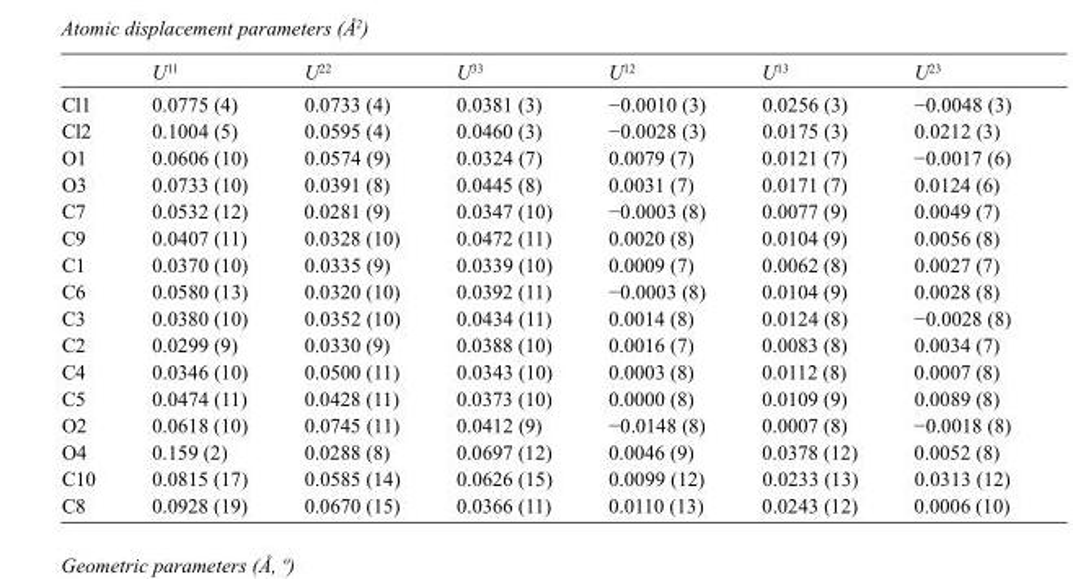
<table><thead><tr><td></td><td>U<sup>11</sup></td><td>U<sup>22</sup></td><td>U<sup>33</sup></td><td>U<sup>12</sup></td><td>U<sup>13</sup></td><td>U<sup>23</sup></td></tr></thead><tbody><tr><td>Cl1</td><td>0.0775 (4)</td><td>0.0733 (4)</td><td>0.0381 (3)</td><td>−0.0010 (3)</td><td>0.0256 (3)</td><td>−0.0048 (3)</td></tr><tr><td>Cl2</td><td>0.1004 (5)</td><td>0.0595 (4)</td><td>0.0460 (3)</td><td>−0.0028 (3)</td><td>0.0175 (3)</td><td>0.0212 (3)</td></tr><tr><td>O1</td><td>0.0606 (10)</td><td>0.0574 (9)</td><td>0.0324 (7)</td><td>0.0079 (7)</td><td>0.0121 (7)</td><td>−0.0017 (6)</td></tr><tr><td>O3</td><td>0.0733 (10)</td><td>0.0391 (8)</td><td>0.0445 (8)</td><td>0.0031 (7)</td><td>0.0171 (7)</td><td>0.0124 (6)</td></tr><tr><td>C7</td><td>0.0532 (12)</td><td>0.0281 (9)</td><td>0.0347 (10)</td><td>−0.0003 (8)</td><td>0.0077 (9)</td><td>0.0049 (7)</td></tr><tr><td>C9</td><td>0.0407 (11)</td><td>0.0328 (10)</td><td>0.0472 (11)</td><td>0.0020 (8)</td><td>0.0104 (9)</td><td>0.0056 (8)</td></tr><tr><td>C1</td><td>0.0370 (10)</td><td>0.0335 (9)</td><td>0.0339 (10)</td><td>0.0009 (7)</td><td>0.0062 (8)</td><td>0.0027 (7)</td></tr><tr><td>C6</td><td>0.0580 (13)</td><td>0.0320 (10)</td><td>0.0392 (11)</td><td>−0.0003 (8)</td><td>0.0104 (9)</td><td>0.0028 (8)</td></tr><tr><td>C3</td><td>0.0380 (10)</td><td>0.0352 (10)</td><td>0.0434 (11)</td><td>0.0014 (8)</td><td>0.0124 (8)</td><td>−0.0028 (8)</td></tr><tr><td>C2</td><td>0.0299 (9)</td><td>0.0330 (9)</td><td>0.0388 (10)</td><td>0.0016 (7)</td><td>0.0083 (8)</td><td>0.0034 (7)</td></tr><tr><td>C4</td><td>0.0346 (10)</td><td>0.0500 (11)</td><td>0.0343 (10)</td><td>0.0003 (8)</td><td>0.0112 (8)</td><td>0.0007 (8)</td></tr><tr><td>C5</td><td>0.0474 (11)</td><td>0.0428 (11)</td><td>0.0373 (10)</td><td>0.0000 (8)</td><td>0.0109 (9)</td><td>0.0089 (8)</td></tr><tr><td>O2</td><td>0.0618 (10)</td><td>0.0745 (11)</td><td>0.0412 (9)</td><td>−0.0148 (8)</td><td>0.0007 (8)</td><td>−0.0018 (8)</td></tr><tr><td>O4</td><td>0.159 (2)</td><td>0.0288 (8)</td><td>0.0697 (12)</td><td>0.0046 (9)</td><td>0.0378 (12)</td><td>0.0052 (8)</td></tr><tr><td>C10</td><td>0.0815 (17)</td><td>0.0585 (14)</td><td>0.0626 (15)</td><td>0.0099 (12)</td><td>0.0233 (13)</td><td>0.0313 (12)</td></tr><tr><td>C8</td><td>0.0928 (19)</td><td>0.0670 (15)</td><td>0.0366 (11)</td><td>0.0110 (13)</td><td>0.0243 (12)</td><td>0.0006 (10)</td></tr></tbody></table>